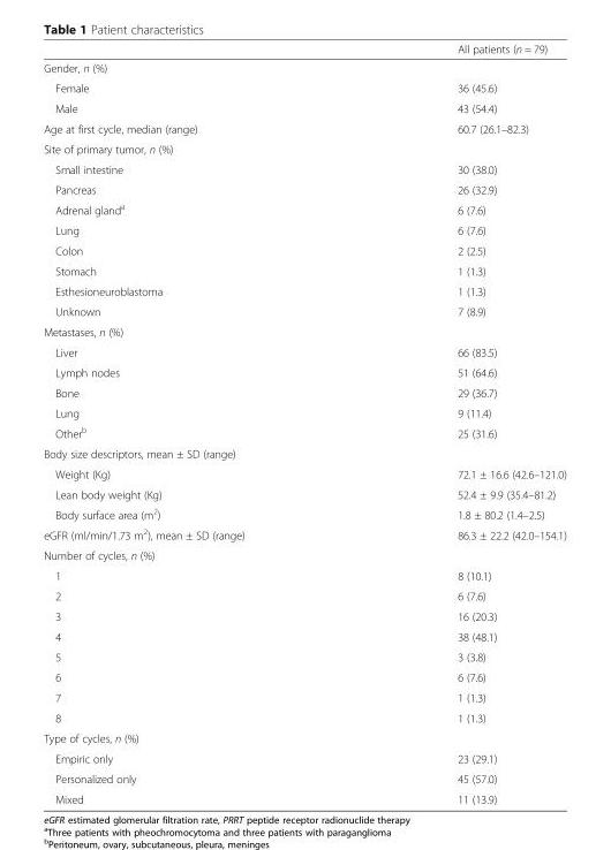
<table><thead><tr><td></td><td>All patients (n = 79)</td></tr></thead><tbody><tr><td colspan="2">Gender, n (%)</td></tr><tr><td>Female</td><td>36 (45.6)</td></tr><tr><td>Male</td><td>43 (54.4)</td></tr><tr><td>Age at first cycle, median (range)</td><td>60.7 (26.1–82.3)</td></tr><tr><td colspan="2">Site of primary tumor, n (%)</td></tr><tr><td>Small intestine</td><td>30 (38.0)</td></tr><tr><td>Pancreas</td><td>26 (32.9)</td></tr><tr><td>Adrenal gland<sup>a</sup></td><td>6 (7.6)</td></tr><tr><td>Lung</td><td>6 (7.6)</td></tr><tr><td>Colon</td><td>2 (2.5)</td></tr><tr><td>Stomach</td><td>1 (1.3)</td></tr><tr><td>Esthesioneuroblastoma</td><td>1 (1.3)</td></tr><tr><td>Unknown</td><td>7 (8.9)</td></tr><tr><td colspan="2">Metastases, n (%)</td></tr><tr><td>Liver</td><td>66 (83.5)</td></tr><tr><td>Lymph nodes</td><td>51 (64.6)</td></tr><tr><td>Bone</td><td>29 (36.7)</td></tr><tr><td>Lung</td><td>9 (11.4)</td></tr><tr><td>Other<sup>b</sup></td><td>25 (31.6)</td></tr><tr><td colspan="2">Body size descriptors, mean ± SD (range)</td></tr><tr><td>Weight (Kg)</td><td>72.1 ± 16.6 (42.6–121.0)</td></tr><tr><td>Lean body weight (Kg)</td><td>52.4 ± 9.9 (35.4–81.2)</td></tr><tr><td>Body surface area (m<sup>2</sup>)</td><td>1.8 ± 80.2 (1.4–2.5)</td></tr><tr><td>eGFR (ml/min/1.73 m<sup>2</sup>), mean ± SD (range)</td><td>86.3 ± 22.2 (42.0–154.1)</td></tr><tr><td colspan="2">Number of cycles, n (%)</td></tr><tr><td>1</td><td>8 (10.1)</td></tr><tr><td>2</td><td>6 (7.6)</td></tr><tr><td>3</td><td>16 (20.3)</td></tr><tr><td>4</td><td>38 (48.1)</td></tr><tr><td>5</td><td>3 (3.8)</td></tr><tr><td>6</td><td>6 (7.6)</td></tr><tr><td>7</td><td>1 (1.3)</td></tr><tr><td>8</td><td>1 (1.3)</td></tr><tr><td colspan="2">Type of cycles, n (%)</td></tr><tr><td>Empiric only</td><td>23 (29.1)</td></tr><tr><td>Personalized only</td><td>45 (57.0)</td></tr><tr><td>Mixed</td><td>11 (13.9)</td></tr></tbody></table>